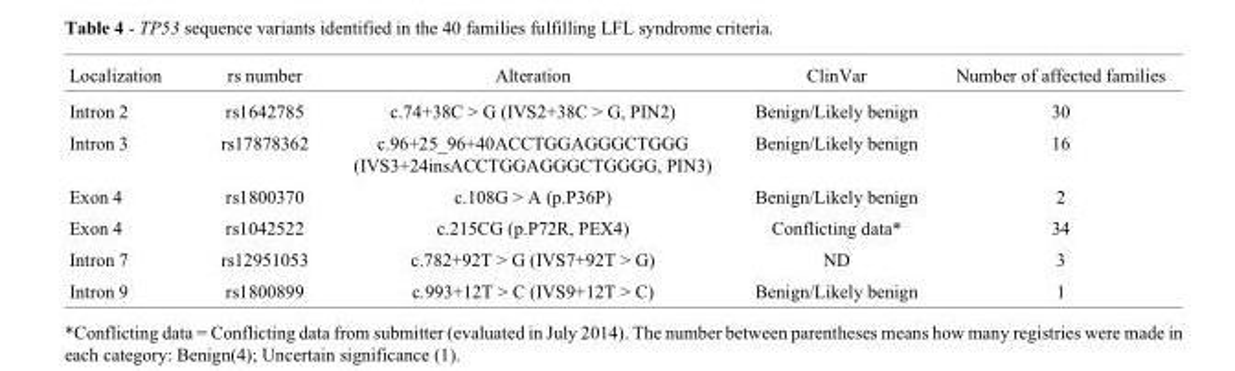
<table><thead><tr><td>Localization</td><td>rs number</td><td>Alteration</td><td>ClinVar</td><td>Number of affected families</td></tr></thead><tbody><tr><td>Intron 2</td><td>rs1642785</td><td>c.74+38C &gt; G (IVS2+38C &gt; G, PIN2)</td><td>Benign/Likely benign</td><td>30</td></tr><tr><td>Intron 3</td><td>rs17878362</td><td>c.96+25_96+40ACCTGGAGGGCTGGG (IVS3+24insACCTGGAGGGCTGGGG, PIN3)</td><td>Benign/Likely benign</td><td>16</td></tr><tr><td>Exon 4</td><td>rs1800370</td><td>c.108G &gt; A (p.P36P)</td><td>Benign/Likely benign</td><td>2</td></tr><tr><td>Exon 4</td><td>rs1042522</td><td>c.215CG (p.P72R, PEX4)</td><td>Conflicting data*</td><td>34</td></tr><tr><td>Intron 7</td><td>rs12951053</td><td>c.782+92T &gt; G (IVS7+92T &gt; G)</td><td>ND</td><td>3</td></tr><tr><td>Intron 9</td><td>rs1800899</td><td>c.993+12T &gt; C (IVS9+12T &gt; C)</td><td>Benign/Likely benign</td><td>1</td></tr></tbody></table>